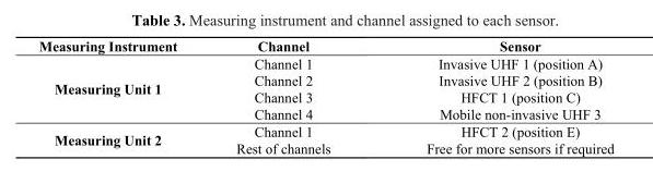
<table><thead><tr><td>Measuring Instrument</td><td>Channel</td><td>Sensor</td></tr></thead><tbody><tr><td rowspan="4">Measuring Unit 1</td><td>Channel 1</td><td>Invasive UHF 1 (position A)</td></tr><tr><td>Channel 2</td><td>Invasive UHF 2 (position B)</td></tr><tr><td>Channel 3</td><td>HFCT 1 (position C)</td></tr><tr><td>Channel 4</td><td>Mobile non-invasive UHF 3</td></tr><tr><td rowspan="2">Measuring Unit 2</td><td>Channel 1</td><td>HFCT 2 (position E)</td></tr><tr><td>Rest of channels</td><td>Free for more sensors if required</td></tr></tbody></table>